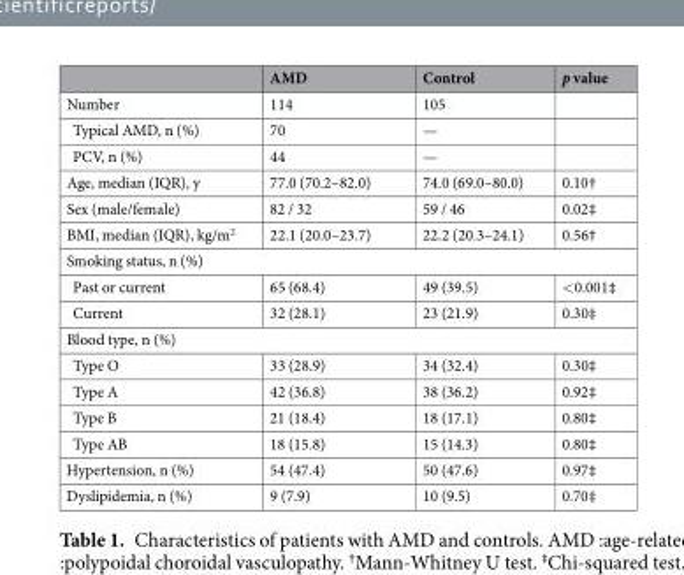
<table><thead><tr><td></td><td>AMD</td><td>Control</td><td>p value</td></tr></thead><tbody><tr><td>Number</td><td>114</td><td>105</td><td></td></tr><tr><td>Typical AMD, n (%)</td><td>70</td><td>—</td><td></td></tr><tr><td>PCV, n (%)</td><td>44</td><td>—</td><td></td></tr><tr><td>Age, median (IQR), y</td><td>77.0 (70.2–82.0)</td><td>74.0 (69.0–80.0)</td><td>0.10†</td></tr><tr><td>Sex (male/female)</td><td>82 / 32</td><td>59 / 46</td><td>0.02‡</td></tr><tr><td>BMI, median (IQR), kg/m<sup>2</sup></td><td>22.1 (20.0–23.7)</td><td>22.2 (20.3–24.1)</td><td>0.56†</td></tr><tr><td colspan="4">Smoking status, n (%)</td></tr><tr><td>Past or current</td><td>65 (68.4)</td><td>49 (39.5)</td><td>&lt;0.001‡</td></tr><tr><td>Current</td><td>32 (28.1)</td><td>23 (21.9)</td><td>0.30‡</td></tr><tr><td colspan="4">Blood type, n (%)</td></tr><tr><td>Type O</td><td>33 (28.9)</td><td>34 (32.4)</td><td>0.30‡</td></tr><tr><td>Type A</td><td>42 (36.8)</td><td>38 (36.2)</td><td>0.92‡</td></tr><tr><td>Type B</td><td>21 (18.4)</td><td>18 (17.1)</td><td>0.80‡</td></tr><tr><td>Type AB</td><td>18 (15.8)</td><td>15 (14.3)</td><td>0.80‡</td></tr><tr><td>Hypertension, n (%)</td><td>54 (47.4)</td><td>50 (47.6)</td><td>0.97‡</td></tr><tr><td>Dyslipidemia, n (%)</td><td>9 (7.9)</td><td>10 (9.5)</td><td>0.70‡</td></tr></tbody></table>